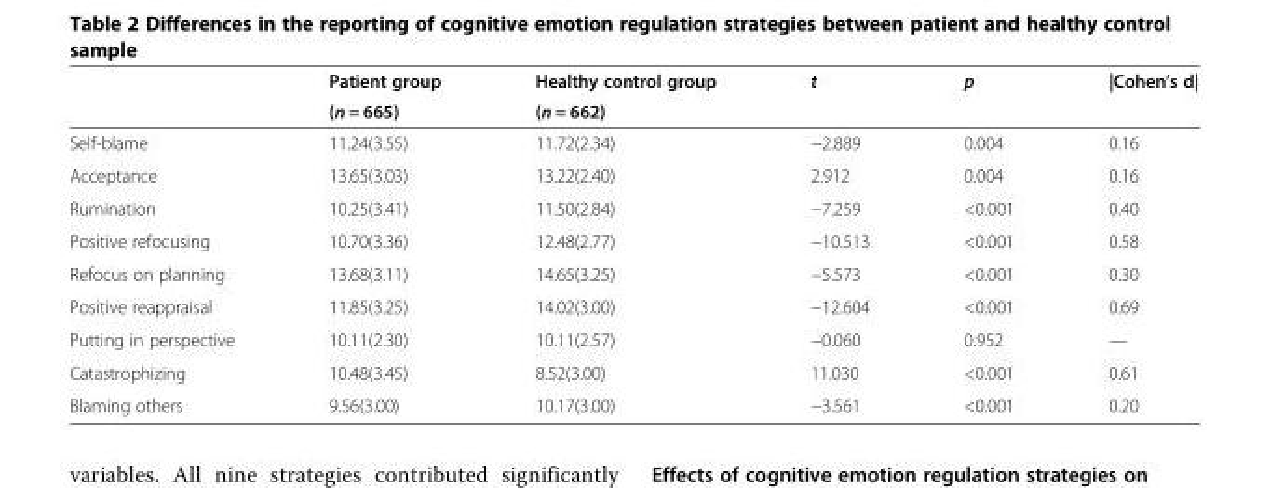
<table><thead><tr><td rowspan="2"></td><td rowspan="2">Patient group (n = 665)</td><td rowspan="2">Healthy control group (n = 662)</td><td rowspan="2">t</td><td rowspan="2">p</td><td rowspan="2">|Cohen’s d|</td></tr><tr></tr></thead><tbody><tr><td>Self-blame</td><td>11.24(3.55)</td><td>11.72(2.34)</td><td>−2.889</td><td>0.004</td><td>0.16</td></tr><tr><td>Acceptance</td><td>13.65(3.03)</td><td>13.22(2.40)</td><td>2.912</td><td>0.004</td><td>0.16</td></tr><tr><td>Rumination</td><td>10.25(3.41)</td><td>11.50(2.84)</td><td>−7.259</td><td>&lt;0.001</td><td>0.40</td></tr><tr><td>Positive refocusing</td><td>10.70(3.36)</td><td>12.48(2.77)</td><td>−10.513</td><td>&lt;0.001</td><td>0.58</td></tr><tr><td>Refocus on planning</td><td>13.68(3.11)</td><td>14.65(3.25)</td><td>−5.573</td><td>&lt;0.001</td><td>0.30</td></tr><tr><td>Positive reappraisal</td><td>11.85(3.25)</td><td>14.02(3.00)</td><td>−12.604</td><td>&lt;0.001</td><td>0.69</td></tr><tr><td>Putting in perspective</td><td>10.11(2.30)</td><td>10.11(2.57)</td><td>−0.060</td><td>0.952</td><td>—</td></tr><tr><td>Catastrophizing</td><td>10.48(3.45)</td><td>8.52(3.00)</td><td>11.030</td><td>&lt;0.001</td><td>0.61</td></tr><tr><td>Blaming others</td><td>9.56(3.00)</td><td>10.17(3.00)</td><td>−3.561</td><td>&lt;0.001</td><td>0.20</td></tr></tbody></table>